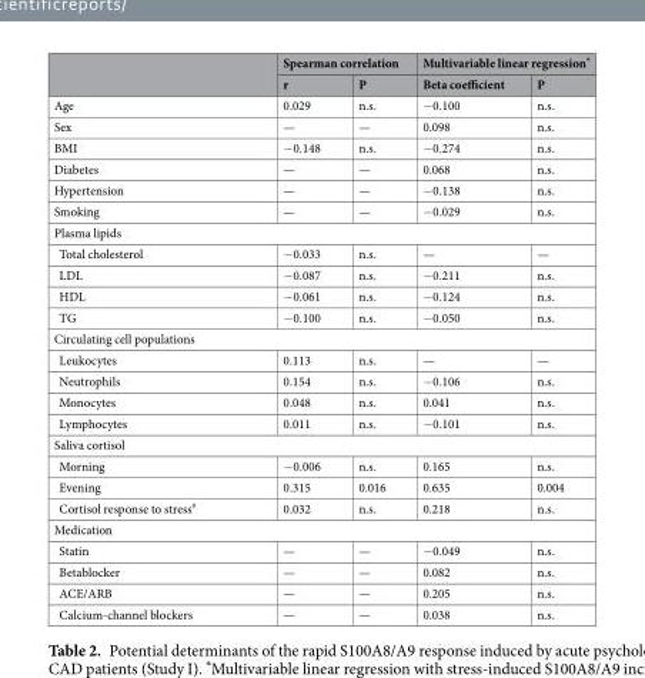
<table><thead><tr><td rowspan="2"></td><td colspan="2">Spearman correlation</td><td colspan="2">Multivariable linear regression*</td></tr><tr><td>r</td><td>P</td><td>Beta coefficient</td><td>P</td></tr></thead><tbody><tr><td>Age</td><td>0.029</td><td>n.s.</td><td>−0.100</td><td>n.s.</td></tr><tr><td>Sex</td><td>—</td><td>—</td><td>0.098</td><td>n.s.</td></tr><tr><td>BMI</td><td>−0.148</td><td>n.s.</td><td>−0.274</td><td>n.s.</td></tr><tr><td>Diabetes</td><td>—</td><td>—</td><td>0.068</td><td>n.s.</td></tr><tr><td>Hypertension</td><td>—</td><td>—</td><td>−0.138</td><td>n.s.</td></tr><tr><td>Smoking</td><td>—</td><td>—</td><td>−0.029</td><td>n.s.</td></tr><tr><td colspan="5">Plasma lipids</td></tr><tr><td>Total cholesterol</td><td>−0.033</td><td>n.s.</td><td>—</td><td>—</td></tr><tr><td>LDL</td><td>−0.087</td><td>n.s.</td><td>−0.211</td><td>n.s.</td></tr><tr><td>HDL</td><td>−0.061</td><td>n.s.</td><td>−0.124</td><td>n.s.</td></tr><tr><td>TG</td><td>−0.100</td><td>n.s.</td><td>−0.050</td><td>n.s.</td></tr><tr><td colspan="5">Circulating cell populations</td></tr><tr><td>Leukocytes</td><td>0.113</td><td>n.s.</td><td>—</td><td>—</td></tr><tr><td>Neutrophils</td><td>0.154</td><td>n.s.</td><td>−0.106</td><td>n.s.</td></tr><tr><td>Monocytes</td><td>0.048</td><td>n.s.</td><td>0.041</td><td>n.s.</td></tr><tr><td>Lymphocytes</td><td>0.011</td><td>n.s.</td><td>−0.101</td><td>n.s.</td></tr><tr><td colspan="5">Saliva cortisol</td></tr><tr><td>Morning</td><td>−0.006</td><td>n.s.</td><td>0.165</td><td>n.s.</td></tr><tr><td>Evening</td><td>0.315</td><td>0.016</td><td>0.635</td><td>0.004</td></tr><tr><td>Cortisol response to stress<sup>#</sup></td><td>0.032</td><td>n.s.</td><td>0.218</td><td>n.s.</td></tr><tr><td colspan="5">Medication</td></tr><tr><td>Statin</td><td>—</td><td>—</td><td>−0.049</td><td>n.s.</td></tr><tr><td>Betablocker</td><td>—</td><td>—</td><td>0.082</td><td>n.s.</td></tr><tr><td>ACE/ARB</td><td>—</td><td>—</td><td>0.205</td><td>n.s.</td></tr><tr><td>Calcium-channel blockers</td><td>—</td><td>—</td><td>0.038</td><td>n.s.</td></tr></tbody></table>